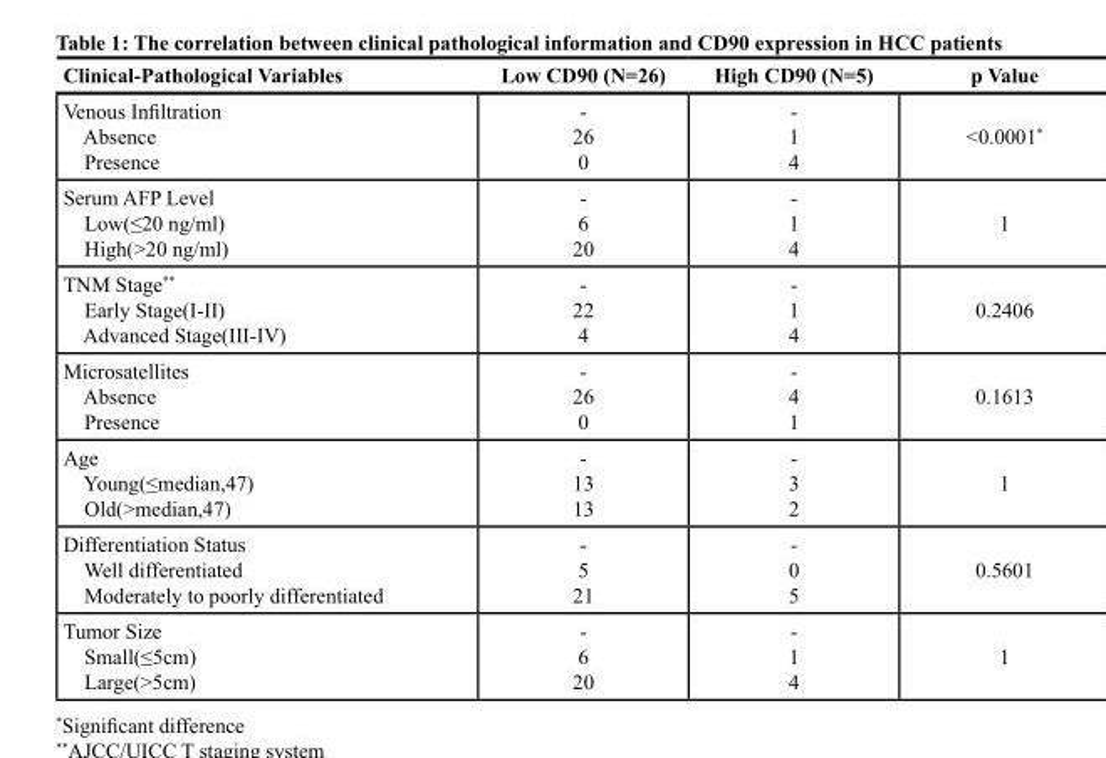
<table><thead><tr><td>Clinical-Pathological Variables</td><td>Low CD90 (N=26)</td><td>High CD90 (N=5)</td><td>p Value</td></tr></thead><tbody><tr><td>Venous Infiltration Absence Presence</td><td>- 26 0</td><td>- 1 4</td><td>&lt;0.0001*</td></tr><tr><td>Serum AFP Level Low(≤20 ng/ml) High(&gt;20 ng/ml)</td><td>- 6 20</td><td>- 1 4</td><td>1</td></tr><tr><td>TNM Stage** Early Stage(I-II) Advanced Stage(III-IV)</td><td>- 22 4</td><td>- 1 4</td><td>0.2406</td></tr><tr><td>Microsatellites Absence Presence</td><td>- 26 0</td><td>- 4 1</td><td>0.1613</td></tr><tr><td>Age Young(≤median,47) Old(&gt;median,47)</td><td>- 13 13</td><td>- 3 2</td><td>1</td></tr><tr><td>Differentiation Status Well differentiated Moderately to poorly differentiated</td><td>- 5 21</td><td>- 0 5</td><td>0.5601</td></tr><tr><td>Tumor Size Small(≤5cm) Large(&gt;5cm)</td><td>- 6 20</td><td>- 1 4</td><td>1</td></tr></tbody></table>